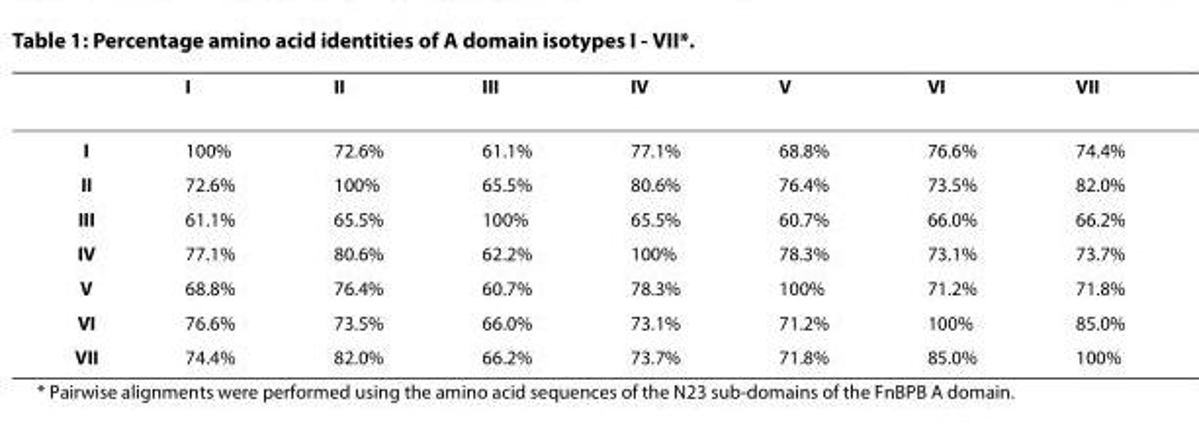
<table><thead><tr><td></td><td>I</td><td>II</td><td>III</td><td>IV</td><td>V</td><td>VI</td><td>VII</td></tr></thead><tbody><tr><td>I</td><td>100%</td><td>72.6%</td><td>61.1%</td><td>77.1%</td><td>68.8%</td><td>76.6%</td><td>74.4%</td></tr><tr><td>II</td><td>72.6%</td><td>100%</td><td>65.5%</td><td>80.6%</td><td>76.4%</td><td>73.5%</td><td>82.0%</td></tr><tr><td>III</td><td>61.1%</td><td>65.5%</td><td>100%</td><td>65.5%</td><td>60.7%</td><td>66.0%</td><td>66.2%</td></tr><tr><td>IV</td><td>77.1%</td><td>80.6%</td><td>62.2%</td><td>100%</td><td>78.3%</td><td>73.1%</td><td>73.7%</td></tr><tr><td>V</td><td>68.8%</td><td>76.4%</td><td>60.7%</td><td>78.3%</td><td>100%</td><td>71.2%</td><td>71.8%</td></tr><tr><td>VI</td><td>76.6%</td><td>73.5%</td><td>66.0%</td><td>73.1%</td><td>71.2%</td><td>100%</td><td>85.0%</td></tr><tr><td>VII</td><td>74.4%</td><td>82.0%</td><td>66.2%</td><td>73.7%</td><td>71.8%</td><td>85.0%</td><td>100%</td></tr></tbody></table>